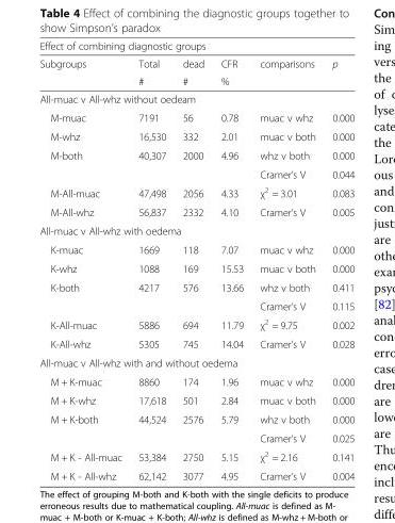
<table><thead><tr><td colspan="6">Effect of combining diagnostic groups</td></tr><tr><td rowspan="2">Subgroups</td><td rowspan="2">Total #</td><td rowspan="2">dead #</td><td rowspan="2">CFR %</td><td rowspan="2">comparisons</td><td rowspan="2">p</td></tr><tr></tr></thead><tbody><tr><td colspan="6">All-muac v All-whz without oedeam</td></tr><tr><td>M-muac</td><td>7191</td><td>56</td><td>0.78</td><td>muac v whz</td><td>0.000</td></tr><tr><td>M-whz</td><td>16,530</td><td>332</td><td>2.01</td><td>muac v both</td><td>0.000</td></tr><tr><td rowspan="2">M-both</td><td>40,307</td><td>2000</td><td>4.96</td><td>whz v both</td><td>0.000</td></tr><tr><td></td><td></td><td></td><td>Cramer’s V</td><td>0.044</td></tr><tr><td>M-All-muac</td><td>47,498</td><td>2056</td><td>4.33</td><td>χ<sup>2</sup> = 3.01</td><td>0.083</td></tr><tr><td>M-All-whz</td><td>56,837</td><td>2332</td><td>4.10</td><td>Cramer’s V</td><td>0.005</td></tr><tr><td colspan="6">All-muac v All-whz with oedema</td></tr><tr><td>K-muac</td><td>1669</td><td>118</td><td>7.07</td><td>muac v whz</td><td>0.000</td></tr><tr><td>K-whz</td><td>1088</td><td>169</td><td>15.53</td><td>muac v both</td><td>0.000</td></tr><tr><td rowspan="2">K-both</td><td>4217</td><td>576</td><td>13.66</td><td>whz v both</td><td>0.411</td></tr><tr><td></td><td></td><td></td><td>Cramer’s V</td><td>0.115</td></tr><tr><td>K-All-muac</td><td>5886</td><td>694</td><td>11.79</td><td>χ<sup>2</sup> = 9.75</td><td>0.002</td></tr><tr><td>K-All-whz</td><td>5305</td><td>745</td><td>14.04</td><td>Cramer’s V</td><td>0.028</td></tr><tr><td colspan="6">All-muac v All-whz with and without oedema</td></tr><tr><td>M + K-muac</td><td>8860</td><td>174</td><td>1.96</td><td>muac v whz</td><td>0.000</td></tr><tr><td>M + K-whz</td><td>17,618</td><td>501</td><td>2.84</td><td>muac v both</td><td>0.000</td></tr><tr><td rowspan="2">M + K-both</td><td>44,524</td><td>2576</td><td>5.79</td><td>whz v both</td><td>0.000</td></tr><tr><td></td><td></td><td></td><td>Cramer’s V</td><td>0.025</td></tr><tr><td>M + K - All-muac</td><td>53,384</td><td>2750</td><td>5.15</td><td>χ<sup>2</sup> = 2.16</td><td>0.141</td></tr><tr><td>M + K - All-whz</td><td>62,142</td><td>3077</td><td>4.95</td><td>Cramer’s V</td><td>0.004</td></tr></tbody></table>